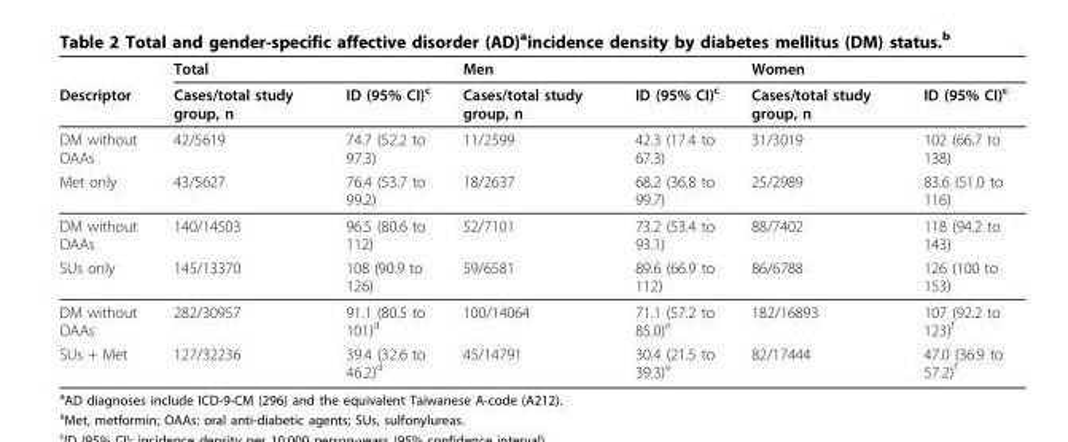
<table><thead><tr><td rowspan="2">Descriptor</td><td colspan="2">Total</td><td colspan="2">Men</td><td colspan="2">Women</td></tr><tr><td>Cases/total study group, n</td><td>ID (95% CI)<sup>c</sup></td><td>Cases/total study group, n</td><td>ID (95% CI)<sup>c</sup></td><td>Cases/total study group, n</td><td>ID (95% CI)<sup>c</sup></td></tr></thead><tbody><tr><td>DM without OAAs</td><td>42/5619</td><td>74.7 (52.2 to 97.3)</td><td>11/2599</td><td>42.3 (17.4 to 67.3)</td><td>31/3019</td><td>102 (66.7 to 138)</td></tr><tr><td>Met only</td><td>43/5627</td><td>76.4 (53.7 to 99.2)</td><td>18/2637</td><td>68.2 (36.8 to 99.7)</td><td>25/2989</td><td>83.6 (51.0 to 116)</td></tr><tr><td>DM without OAAs</td><td>140/14503</td><td>96.5 (80.6 to 112)</td><td>52/7101</td><td>73.2 (53.4 to 93.1)</td><td>88/7402</td><td>118 (94.2 to 143)</td></tr><tr><td>SUs only</td><td>145/13370</td><td>108 (90.9 to 126)</td><td>59/6581</td><td>89.6 (66.9 to 112)</td><td>86/6788</td><td>126 (100 to 153)</td></tr><tr><td>DM without OAAs</td><td>282/30957</td><td>91.1 (80.5 to 101)<sup>d</sup></td><td>100/14064</td><td>71.1 (57.2 to 85.0)<sup>e</sup></td><td>182/16893</td><td>107 (92.2 to 123)<sup>f</sup></td></tr><tr><td>SUs + Met</td><td>127/32236</td><td>39.4 (32.6 to 46.2)<sup>d</sup></td><td>45/14791</td><td>30.4 (21.5 to 39.3)<sup>e</sup></td><td>82/17444</td><td>47.0 (36.9 to 57.2)<sup>f</sup></td></tr></tbody></table>